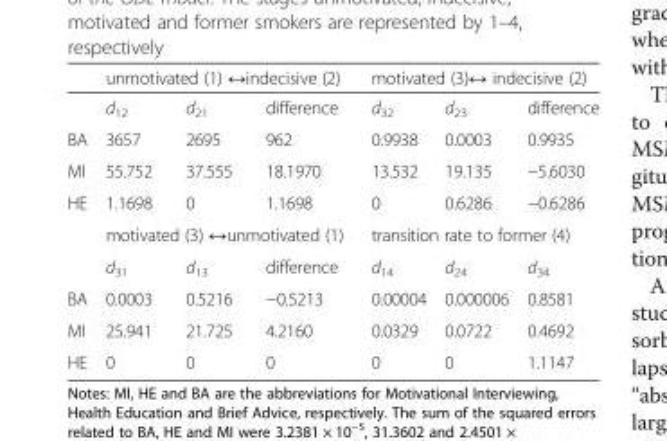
<table><thead><tr><td rowspan="2"></td><td colspan="3">unmotivated (1) ↔indecisive (2)</td><td colspan="3">motivated (3)↔ indecisive (2)</td></tr><tr><td>d<sub>12</sub></td><td>d<sub>21</sub></td><td>difference</td><td>d<sub>32</sub></td><td>d<sub>23</sub></td><td>difference</td></tr></thead><tbody><tr><td>BA</td><td>3657</td><td>2695</td><td>962</td><td>0.9938</td><td>0.0003</td><td>0.9935</td></tr><tr><td>MI</td><td>55.752</td><td>37.555</td><td>18.1970</td><td>13.532</td><td>19.135</td><td>−5.6030</td></tr><tr><td rowspan="3">HE</td><td>1.1698</td><td>0</td><td>1.1698</td><td>0</td><td>0.6286</td><td>−0.6286</td></tr><tr><td colspan="3">motivated (3) ↔unmotivated (1)</td><td colspan="3">transition rate to former (4)</td></tr><tr><td>d<sub>31</sub></td><td>d<sub>13</sub></td><td>difference</td><td>d<sub>14</sub></td><td>d<sub>24</sub></td><td>d<sub>34</sub></td></tr><tr><td>BA</td><td>0.0003</td><td>0.5216</td><td>−0.5213</td><td>0.00004</td><td>0.000006</td><td>0.8581</td></tr><tr><td>MI</td><td>25.941</td><td>21.725</td><td>4.2160</td><td>0.0329</td><td>0.0722</td><td>0.4692</td></tr><tr><td>HE</td><td>0</td><td>0</td><td>0</td><td>0</td><td>0</td><td>1.1147</td></tr></tbody></table>